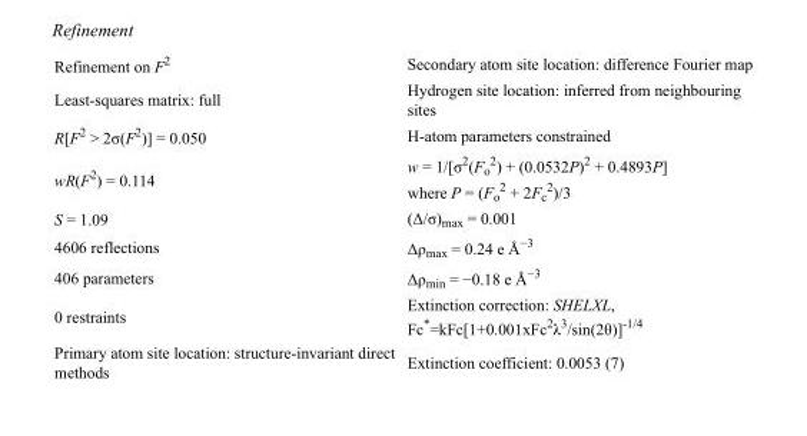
<table><tbody><tr><td>Refinement on F<sup>2</sup></td><td>Secondary atom site location: difference Fourier map</td></tr><tr><td>Least-squares matrix: full</td><td>Hydrogen site location: inferred from neighbouring sites</td></tr><tr><td>R[F<sup>2</sup> &gt; 2σ(F<sup>2</sup>)] = 0.050</td><td>H-atom parameters constrained</td></tr><tr><td>wR(F<sup>2</sup>) = 0.114</td><td>w = 1/[σ<sup>2</sup>(F<sub>o</sub> <sup>2</sup>) + (0.0532P)<sup>2</sup> + 0.4893P] where P = (F<sub>o</sub> <sup>2</sup> + 2F<sub>c</sub> <sup>2</sup>)/3</td></tr><tr><td>S = 1.09</td><td>(Δ/σ)<sub>max</sub> = 0.001</td></tr><tr><td>4606 reflections</td><td>Δρ<sub>max</sub> = 0.24 e Å<sup>−3</sup></td></tr><tr><td>406 parameters</td><td>Δρ<sub>min</sub> = −0.18 e Å<sup>−3</sup></td></tr><tr><td>0 restraints</td><td>Extinction correction: SHELXL, Fc*=kFc[1+0.001xFc<sup>2</sup>λ<sup>3</sup>/sin(2θ)]<sup>-1/4</sup></td></tr><tr><td>Primary atom site location: structure-invariant direct methods</td><td>Extinction coefficient: 0.0053 (7)</td></tr></tbody></table>